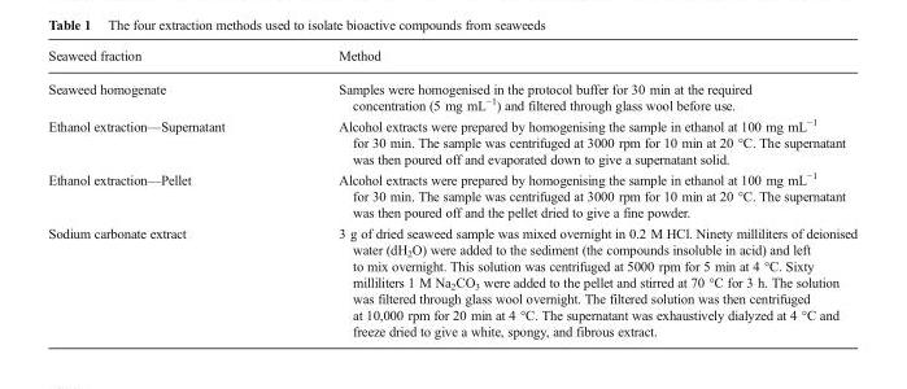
<table><thead><tr><td>Seaweed fraction</td><td>Method</td></tr></thead><tbody><tr><td>Seaweed homogenate</td><td>Samples were homogenised in the protocol buffer for 30 min at the required concentration (5 mg mL<sup>−1</sup>) and filtered through glass wool before use.</td></tr><tr><td>Ethanol extraction—Supernatant</td><td>Alcohol extracts were prepared by homogenising the sample in ethanol at 100 mg mL<sup>−1</sup> for 30 min. The sample was centrifuged at 3000 rpm for 10 min at 20 °C. The supernatant was then poured off and evaporated down to give a supernatant solid.</td></tr><tr><td>Ethanol extraction—Pellet</td><td>Alcohol extracts were prepared by homogenising the sample in ethanol at 100 mg mL<sup>−1</sup> for 30 min. The sample was centrifuged at 3000 rpm for 10 min at 20 °C. The supernatant was then poured off and the pellet dried to give a fine powder.</td></tr><tr><td>Sodium carbonate extract</td><td>3 g of dried seaweed sample was mixed overnight in 0.2 M HCl. Ninety milliliters of deionised water (dH<sub>2</sub>O) were added to the sediment (the compounds insoluble in acid) and left to mix overnight. This solution was centrifuged at 5000 rpm for 5 min at 4 °C. Sixty milliliters 1 M Na<sub>2</sub>CO<sub>3</sub> were added to the pellet and stirred at 70 °C for 3 h. The solution was filtered through glass wool overnight. The filtered solution was then centrifuged at 10,000 rpm for 20 min at 4 °C. The supernatant was exhaustively dialyzed at 4 °C and freeze dried to give a white, spongy, and fibrous extract.</td></tr></tbody></table>